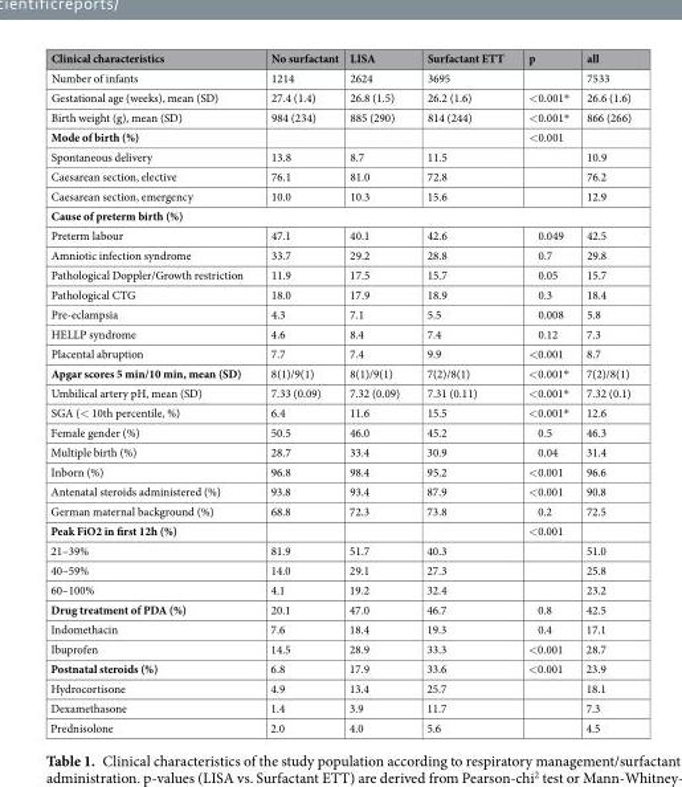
<table><thead><tr><td>Clinical characteristics</td><td>No surfactant</td><td>LISA</td><td>Surfactant ETT</td><td>p</td><td>all</td></tr></thead><tbody><tr><td>Number of infants</td><td>1214</td><td>2624</td><td>3695</td><td></td><td>7533</td></tr><tr><td>Gestational age (weeks), mean (SD)</td><td>27.4 (1.4)</td><td>26.8 (1.5)</td><td>26.2 (1.6)</td><td>&lt;0.001*</td><td>26.6 (1.6)</td></tr><tr><td>Birth weight (g), mean (SD)</td><td>984 (234)</td><td>885 (290)</td><td>814 (244)</td><td>&lt;0.001*</td><td>866 (266)</td></tr><tr><td>Mode of birth (%)</td><td></td><td></td><td></td><td>&lt;0.001</td><td></td></tr><tr><td>Spontaneous delivery</td><td>13.8</td><td>8.7</td><td>11.5</td><td></td><td>10.9</td></tr><tr><td>Caesarean section, elective</td><td>76.1</td><td>81.0</td><td>72.8</td><td></td><td>76.2</td></tr><tr><td>Caesarean section, emergency</td><td>10.0</td><td>10.3</td><td>15.6</td><td></td><td>12.9</td></tr><tr><td colspan="6">Cause of preterm birth (%)</td></tr><tr><td>Preterm labour</td><td>47.1</td><td>40.1</td><td>42.6</td><td>0.049</td><td>42.5</td></tr><tr><td>Amniotic infection syndrome</td><td>33.7</td><td>29.2</td><td>28.8</td><td>0.7</td><td>29.8</td></tr><tr><td>Pathological Doppler/Growth restriction</td><td>11.9</td><td>17.5</td><td>15.7</td><td>0.05</td><td>15.7</td></tr><tr><td>Pathological CTG</td><td>18.0</td><td>17.9</td><td>18.9</td><td>0.3</td><td>18.4</td></tr><tr><td>Pre-eclampsia</td><td>4.3</td><td>7.1</td><td>5.5</td><td>0.008</td><td>5.8</td></tr><tr><td>HELLP syndrome</td><td>4.6</td><td>8.4</td><td>7.4</td><td>0.12</td><td>7.3</td></tr><tr><td>Placental abruption</td><td>7.7</td><td>7.4</td><td>9.9</td><td>&lt;0.001</td><td>8.7</td></tr><tr><td>Apgar scores 5 min/10 min, mean (SD)</td><td>8(1)/9(1)</td><td>8(1)/9(1)</td><td>7(2)/8(1)</td><td>&lt;0.001*</td><td>7(2)/8(1)</td></tr><tr><td>Umbilical artery pH, mean (SD)</td><td>7.33 (0.09)</td><td>7.32 (0.09)</td><td>7.31 (0.11)</td><td>&lt;0.001*</td><td>7.32 (0.1)</td></tr><tr><td>SGA (&lt; 10th percentile, %)</td><td>6.4</td><td>11.6</td><td>15.5</td><td>&lt;0.001*</td><td>12.6</td></tr><tr><td>Female gender (%)</td><td>50.5</td><td>46.0</td><td>45.2</td><td>0.5</td><td>46.3</td></tr><tr><td>Multiple birth (%)</td><td>28.7</td><td>33.4</td><td>30.9</td><td>0.04</td><td>31.4</td></tr><tr><td>Inborn (%)</td><td>96.8</td><td>98.4</td><td>95.2</td><td>&lt;0.001</td><td>96.6</td></tr><tr><td>Antenatal steroids administered (%)</td><td>93.8</td><td>93.4</td><td>87.9</td><td>&lt;0.001</td><td>90.8</td></tr><tr><td>German maternal background (%)</td><td>68.8</td><td>72.3</td><td>73.8</td><td>0.2</td><td>72.5</td></tr><tr><td>Peak FiO2 in first 12h (%)</td><td></td><td></td><td></td><td>&lt;0.001</td><td></td></tr><tr><td>21–39%</td><td>81.9</td><td>51.7</td><td>40.3</td><td></td><td>51.0</td></tr><tr><td>40–59%</td><td>14.0</td><td>29.1</td><td>27.3</td><td></td><td>25.8</td></tr><tr><td>60–100%</td><td>4.1</td><td>19.2</td><td>32.4</td><td></td><td>23.2</td></tr><tr><td>Drug treatment of PDA (%)</td><td>20.1</td><td>47.0</td><td>46.7</td><td>0.8</td><td>42.5</td></tr><tr><td>Indomethacin</td><td>7.6</td><td>18.4</td><td>19.3</td><td>0.4</td><td>17.1</td></tr><tr><td>Ibuprofen</td><td>14.5</td><td>28.9</td><td>33.3</td><td>&lt;0.001</td><td>28.7</td></tr><tr><td>Postnatal steroids (%)</td><td>6.8</td><td>17.9</td><td>33.6</td><td>&lt;0.001</td><td>23.9</td></tr><tr><td>Hydrocortisone</td><td>4.9</td><td>13.4</td><td>25.7</td><td></td><td>18.1</td></tr><tr><td>Dexamethasone</td><td>1.4</td><td>3.9</td><td>11.7</td><td></td><td>7.3</td></tr><tr><td>Prednisolone</td><td>2.0</td><td>4.0</td><td>5.6</td><td></td><td>4.5</td></tr></tbody></table>